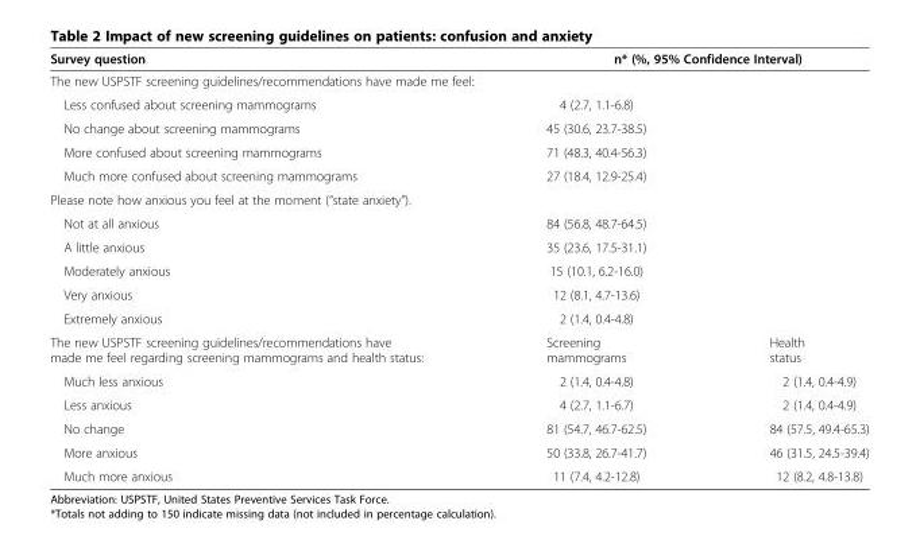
<table><thead><tr><td>Survey question</td><td colspan="2">n* (%, 95% Confidence Interval)</td></tr><tr><td colspan="3">The new USPSTF screening guidelines/recommendations have made me feel:</td></tr><tr><td>Less confused about screening mammograms</td><td>4 (2.7, 1.1-6.8)</td><td></td></tr></thead><tbody><tr><td>No change about screening mammograms</td><td>45 (30.6, 23.7-38.5)</td><td></td></tr><tr><td>More confused about screening mammograms</td><td>71 (48.3, 40.4-56.3)</td><td></td></tr><tr><td>Much more confused about screening mammograms</td><td>27 (18.4, 12.9-25.4)</td><td></td></tr><tr><td colspan="3">Please note how anxious you feel at the moment (“state anxiety”).</td></tr><tr><td>Not at all anxious</td><td>84 (56.8, 48.7-64.5)</td><td></td></tr><tr><td>A little anxious</td><td>35 (23.6, 17.5-31.1)</td><td></td></tr><tr><td>Moderately anxious</td><td>15 (10.1, 6.2-16.0)</td><td></td></tr><tr><td>Very anxious</td><td>12 (8.1, 4.7-13.6)</td><td></td></tr><tr><td>Extremely anxious</td><td>2 (1.4, 0.4-4.8)</td><td></td></tr><tr><td>The new USPSTF screening guidelines/recommendations have made me feel regarding screening mammograms and health status:</td><td>Screening mammograms</td><td>Health status</td></tr><tr><td>Much less anxious</td><td>2 (1.4, 0.4-4.8)</td><td>2 (1.4, 0.4-4.9)</td></tr><tr><td>Less anxious</td><td>4 (2.7, 1.1-6.7)</td><td>2 (1.4, 0.4-4.9)</td></tr><tr><td>No change</td><td>81 (54.7, 46.7-62.5)</td><td>84 (57.5, 49.4-65.3)</td></tr><tr><td>More anxious</td><td>50 (33.8, 26.7-41.7)</td><td>46 (31.5, 24.5-39.4)</td></tr><tr><td>Much more anxious</td><td>11 (7.4, 4.2-12.8)</td><td>12 (8.2, 4.8-13.8)</td></tr></tbody></table>